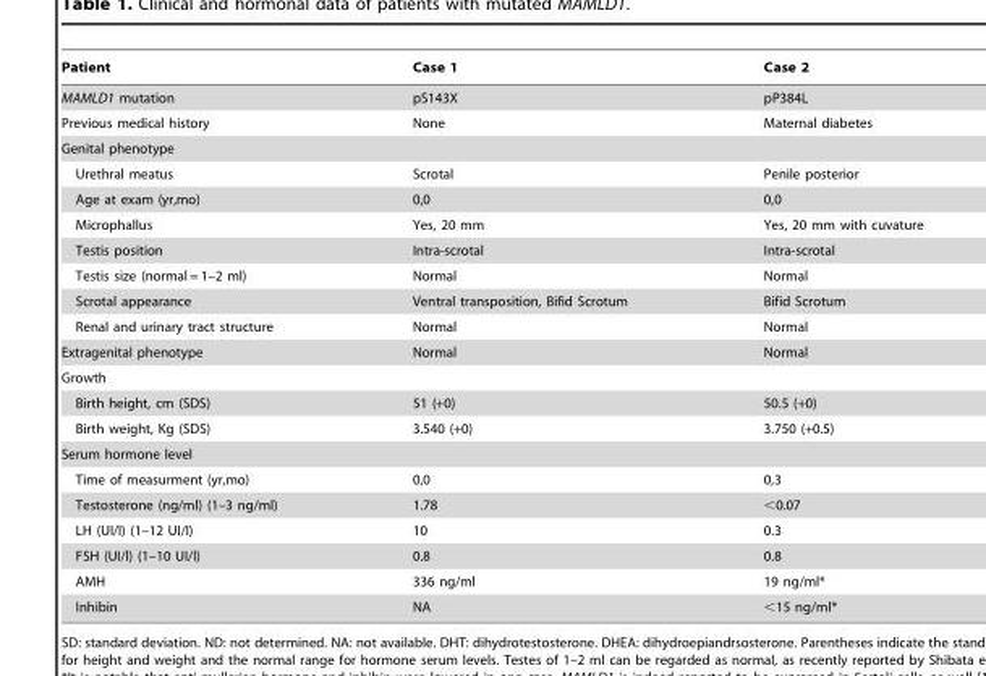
<table><thead><tr><td>Patient</td><td>Case 1</td><td>Case 2</td></tr></thead><tbody><tr><td>MAMLD1 mutation</td><td>pS143X</td><td>pP384L</td></tr><tr><td>Previous medical history</td><td>None</td><td>Maternal diabetes</td></tr><tr><td colspan="3">Genital phenotype</td></tr><tr><td>Urethral meatus</td><td>Scrotal</td><td>Penile posterior</td></tr><tr><td>Age at exam (yr,mo)</td><td>0,0</td><td>0,0</td></tr><tr><td>Microphallus</td><td>Yes, 20 mm</td><td>Yes, 20 mm with cuvature</td></tr><tr><td>Testis position</td><td>Intra-scrotal</td><td>Intra-scrotal</td></tr><tr><td>Testis size (normal = 1–2 ml)</td><td>Normal</td><td>Normal</td></tr><tr><td>Scrotal appearance</td><td>Ventral transposition, Bifid Scrotum</td><td>Bifid Scrotum</td></tr><tr><td>Renal and urinary tract structure</td><td>Normal</td><td>Normal</td></tr><tr><td>Extragenital phenotype</td><td>Normal</td><td>Normal</td></tr><tr><td colspan="3">Growth</td></tr><tr><td>Birth height, cm (SDS)</td><td>51 (+0)</td><td>50.5 (+0)</td></tr><tr><td>Birth weight, Kg (SDS)</td><td>3.540 (+0)</td><td>3.750 (+0.5)</td></tr><tr><td colspan="3">Serum hormone level</td></tr><tr><td>Time of measurment (yr,mo)</td><td>0,0</td><td>0,3</td></tr><tr><td>Testosterone (ng/ml) (1–3 ng/ml)</td><td>1.78</td><td>&lt;0.07</td></tr><tr><td>LH (UI/l) (1–12 UI/l)</td><td>10</td><td>0.3</td></tr><tr><td>FSH (UI/l) (1–10 UI/l)</td><td>0.8</td><td>0.8</td></tr><tr><td>AMH</td><td>336 ng/ml</td><td>19 ng/ml*</td></tr><tr><td>Inhibin</td><td>NA</td><td>&lt;15 ng/ml*</td></tr></tbody></table>